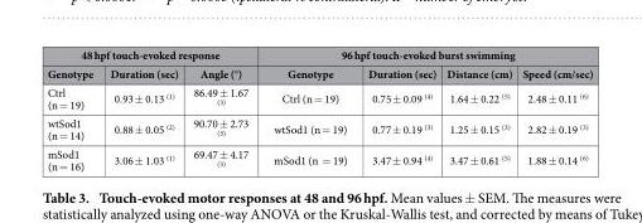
<table><thead><tr><td colspan="3">48 hpf touch-evoked response</td><td colspan="4">96 hpf touch-evoked burst swimming</td></tr><tr><td>Genotype</td><td>Duration (sec)</td><td>Angle (°)</td><td>Genotype</td><td>Duration (sec)</td><td>Distance (cm)</td><td>Speed (cm/sec)</td></tr></thead><tbody><tr><td>Ctrl (n = 19)</td><td>0.93 ± 0.13 <sup>(1)</sup></td><td>86.49 ± 1.67 <sup>(3)</sup></td><td>Ctrl (n = 19)</td><td>0.75 ± 0.09 <sup>(4)</sup></td><td>1.64 ± 0.22 <sup>(5)</sup></td><td>2.48 ± 0.11 <sup>(6)</sup></td></tr><tr><td>wtSod1 (n = 14)</td><td>0.88 ± 0.05 <sup>(2)</sup></td><td>90.70 ± 2.73 <sup>(3)</sup></td><td>wtSod1 (n = 19)</td><td>0.77 ± 0.19 <sup>(3)</sup></td><td>1.25 ± 0.15 <sup>(3)</sup></td><td>2.82 ± 0.19 <sup>(3)</sup></td></tr><tr><td>mSod1 (n = 16)</td><td>3.06 ± 1.03 <sup>(1)</sup></td><td>69.47 ± 4.17 <sup>(3)</sup></td><td>mSod1 (n = 19)</td><td>3.47 ± 0.94 <sup>(4)</sup></td><td>3.47 ± 0.61 <sup>(5)</sup></td><td>1.88 ± 0.14 <sup>(6)</sup></td></tr></tbody></table>